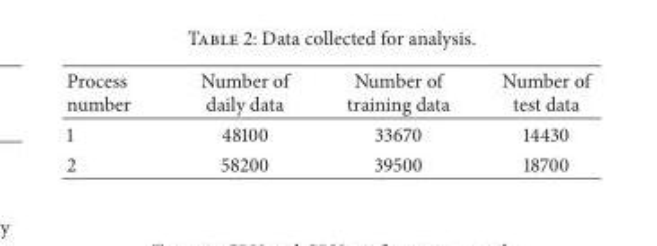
<table><thead><tr><td>Process number</td><td>Number of daily data</td><td>Number of training data</td><td>Number of test data</td></tr></thead><tbody><tr><td>1</td><td>48100</td><td>33670</td><td>14430</td></tr><tr><td>2</td><td>58200</td><td>39500</td><td>18700</td></tr></tbody></table>